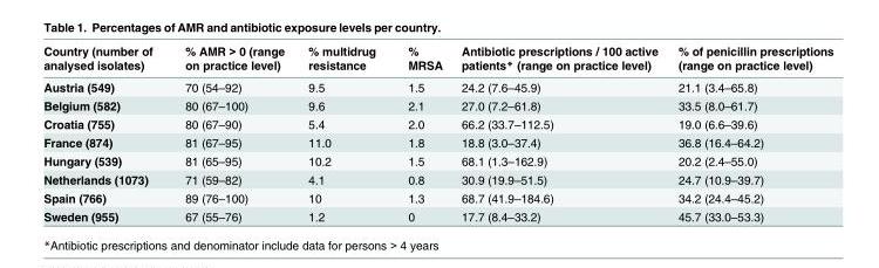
<table><thead><tr><td>Country (number of analysed isolates)</td><td>% AMR &gt; 0 (range on practice level)</td><td>% multidrug resistance</td><td>% MRSA</td><td>Antibiotic prescriptions / 100 active patients* (range on practice level)</td><td>% of penicillin prescriptions (range on practice level)</td></tr></thead><tbody><tr><td>Austria (549)</td><td>70 (54–92)</td><td>9.5</td><td>1.5</td><td>24.2 (7.6–45.9)</td><td>21.1 (3.4–65.8)</td></tr><tr><td>Belgium (582)</td><td>80 (67–100)</td><td>9.6</td><td>2.1</td><td>27.0 (7.2–61.8)</td><td>33.5 (8.0–61.7)</td></tr><tr><td>Croatia (755)</td><td>80 (67–90)</td><td>5.4</td><td>2.0</td><td>66.2 (33.7–112.5)</td><td>19.0 (6.6–39.6)</td></tr><tr><td>France (874)</td><td>81 (67–95)</td><td>11.0</td><td>1.8</td><td>18.8 (3.0–37.4)</td><td>36.8 (16.4–64.2)</td></tr><tr><td>Hungary (539)</td><td>81 (65–95)</td><td>10.2</td><td>1.5</td><td>68.1 (1.3–162.9)</td><td>20.2 (2.4–55.0)</td></tr><tr><td>Netherlands (1073)</td><td>71 (59–82)</td><td>4.1</td><td>0.8</td><td>30.9 (19.9–51.5)</td><td>24.7 (10.9–39.7)</td></tr><tr><td>Spain (766)</td><td>89 (76–100)</td><td>10</td><td>1.3</td><td>68.7 (41.9–184.6)</td><td>34.2 (24.4–45.2)</td></tr><tr><td>Sweden (955)</td><td>67 (55–76)</td><td>1.2</td><td>0</td><td>17.7 (8.4–33.2)</td><td>45.7 (33.0–53.3)</td></tr></tbody></table>